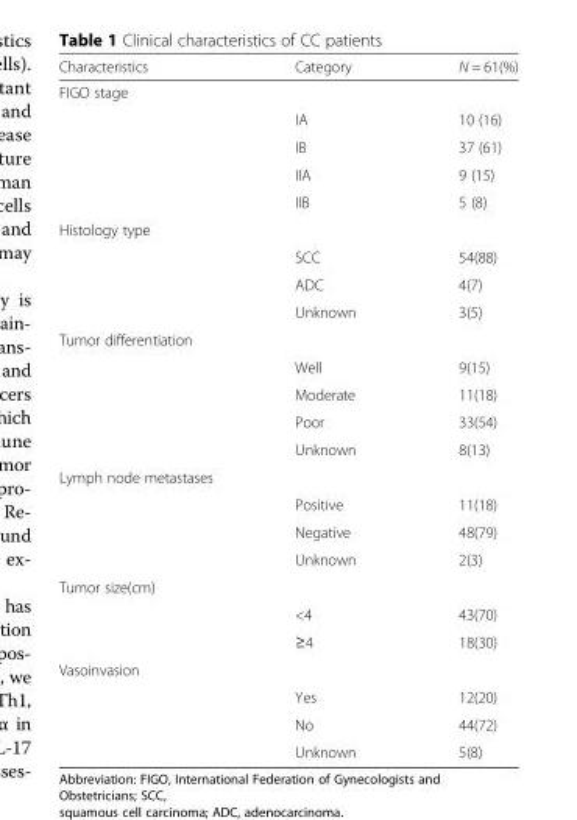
<table><thead><tr><td>Characteristics</td><td>Category</td><td>N = 61(%)</td></tr></thead><tbody><tr><td colspan="3">FIGO stage</td></tr><tr><td></td><td>IA</td><td>10 (16)</td></tr><tr><td></td><td>IB</td><td>37 (61)</td></tr><tr><td></td><td>IIA</td><td>9 (15)</td></tr><tr><td></td><td>IIB</td><td>5 (8)</td></tr><tr><td colspan="3">Histology type</td></tr><tr><td></td><td>SCC</td><td>54(88)</td></tr><tr><td></td><td>ADC</td><td>4(7)</td></tr><tr><td></td><td>Unknown</td><td>3(5)</td></tr><tr><td colspan="3">Tumor differentiation</td></tr><tr><td></td><td>Well</td><td>9(15)</td></tr><tr><td></td><td>Moderate</td><td>11(18)</td></tr><tr><td></td><td>Poor</td><td>33(54)</td></tr><tr><td></td><td>Unknown</td><td>8(13)</td></tr><tr><td colspan="3">Lymph node metastases</td></tr><tr><td></td><td>Positive</td><td>11(18)</td></tr><tr><td></td><td>Negative</td><td>48(79)</td></tr><tr><td></td><td>Unknown</td><td>2(3)</td></tr><tr><td colspan="3">Tumor size(cm)</td></tr><tr><td></td><td>&lt;4</td><td>43(70)</td></tr><tr><td></td><td>≥4</td><td>18(30)</td></tr><tr><td colspan="3">Vasoinvasion</td></tr><tr><td></td><td>Yes</td><td>12(20)</td></tr><tr><td></td><td>No</td><td>44(72)</td></tr><tr><td></td><td>Unknown</td><td>5(8)</td></tr></tbody></table>